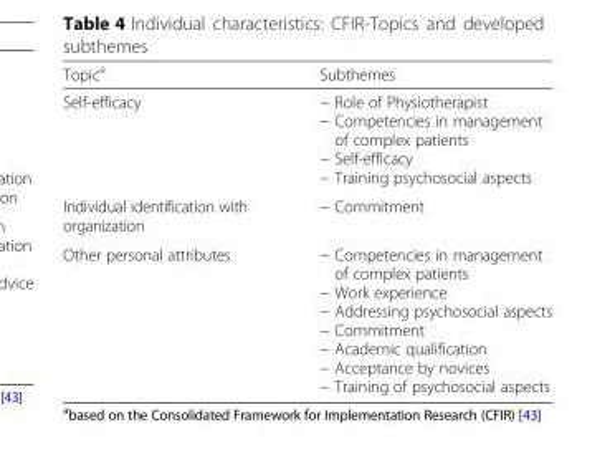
<table><thead><tr><td>Topic<sup>a</sup></td><td>Subthemes</td></tr></thead><tbody><tr><td>Self-efficacy</td><td>− Role of Physiotherapist − Competencies in management of complex patients − Self-efficacy − Training psychosocial aspects</td></tr><tr><td>Individual identification with organization</td><td>− Commitment</td></tr><tr><td>Other personal attributes</td><td>− Competencies in management of complex patients − Work experience − Addressing psychosocial aspects − Commitment − Academic qualification − Acceptance by novices − Training of psychosocial aspects</td></tr></tbody></table>